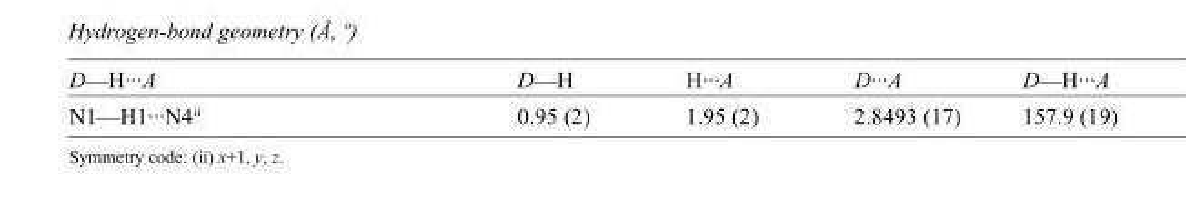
<table><tbody><tr><td>D—H···A</td><td>D—H</td><td>H···A</td><td>D···A</td><td>D—H···A</td></tr><tr><td>N1—H1···N4<sup>ii</sup></td><td>0.95 (2)</td><td>1.95 (2)</td><td>2.8493 (17)</td><td>157.9 (19)</td></tr></tbody></table>